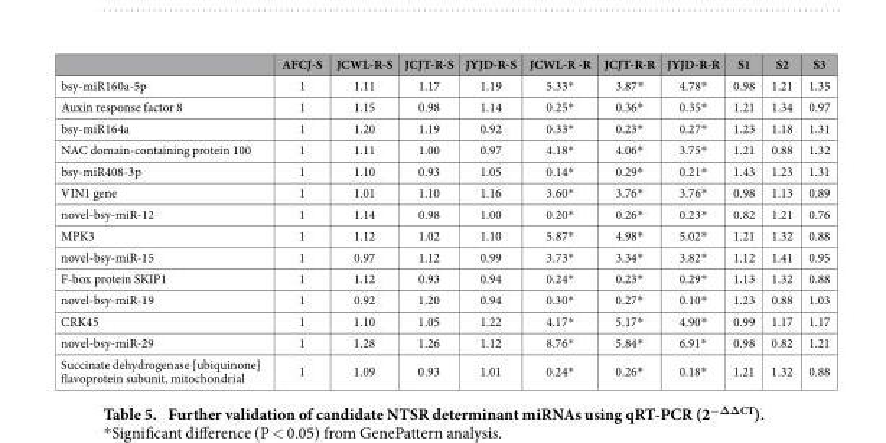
<table><thead><tr><td></td><td>AFCJ-S</td><td>JCWL-R-S</td><td>JCJT-R-S</td><td>JYJD-R-S</td><td>JCWL-R -R</td><td>JCJT-R-R</td><td>JYJD-R-R</td><td>S1</td><td>S2</td><td>S3</td></tr></thead><tbody><tr><td>bsy-miR160a-5p</td><td>1</td><td>1.11</td><td>1.17</td><td>1.19</td><td>5.33*</td><td>3.87*</td><td>4.78*</td><td>0.98</td><td>1.21</td><td>1.35</td></tr><tr><td>Auxin response factor 8</td><td>1</td><td>1.15</td><td>0.98</td><td>1.14</td><td>0.25*</td><td>0.36*</td><td>0.35*</td><td>1.21</td><td>1.34</td><td>0.97</td></tr><tr><td>bsy-miR164a</td><td>1</td><td>1.20</td><td>1.19</td><td>0.92</td><td>0.33*</td><td>0.23*</td><td>0.27*</td><td>1.23</td><td>1.18</td><td>1.31</td></tr><tr><td>NAC domain-containing protein 100</td><td>1</td><td>1.11</td><td>1.00</td><td>0.97</td><td>4.18*</td><td>4.06*</td><td>3.75*</td><td>1.21</td><td>0.88</td><td>1.32</td></tr><tr><td>bsy-miR408-3p</td><td>1</td><td>1.10</td><td>0.93</td><td>1.05</td><td>0.14*</td><td>0.29*</td><td>0.21*</td><td>1.43</td><td>1.23</td><td>1.31</td></tr><tr><td>VIN1 gene</td><td>1</td><td>1.01</td><td>1.10</td><td>1.16</td><td>3.60*</td><td>3.76*</td><td>3.76*</td><td>0.98</td><td>1.13</td><td>0.89</td></tr><tr><td>novel-bsy-miR-12</td><td>1</td><td>1.14</td><td>0.98</td><td>1.00</td><td>0.20*</td><td>0.26*</td><td>0.23*</td><td>0.82</td><td>1.21</td><td>0.76</td></tr><tr><td>MPK3</td><td>1</td><td>1.12</td><td>1.02</td><td>1.10</td><td>5.87*</td><td>4.98*</td><td>5.02*</td><td>1.21</td><td>1.32</td><td>0.88</td></tr><tr><td>novel-bsy-miR-15</td><td>1</td><td>0.97</td><td>1.12</td><td>0.99</td><td>3.73*</td><td>3.34*</td><td>3.82*</td><td>1.12</td><td>1.41</td><td>0.95</td></tr><tr><td>F-box protein SKIP1</td><td>1</td><td>1.12</td><td>0.93</td><td>0.94</td><td>0.24*</td><td>0.23*</td><td>0.29*</td><td>1.13</td><td>1.32</td><td>0.88</td></tr><tr><td>novel-bsy-miR-19</td><td>1</td><td>0.92</td><td>1.20</td><td>0.94</td><td>0.30*</td><td>0.27*</td><td>0.10*</td><td>1.23</td><td>0.88</td><td>1.03</td></tr><tr><td>CRK45</td><td>1</td><td>1.10</td><td>1.05</td><td>1.22</td><td>4.17*</td><td>5.17*</td><td>4.90*</td><td>0.99</td><td>1.17</td><td>1.17</td></tr><tr><td>novel-bsy-miR-29</td><td>1</td><td>1.28</td><td>1.26</td><td>1.12</td><td>8.76*</td><td>5.84*</td><td>6.91*</td><td>0.98</td><td>0.82</td><td>1.21</td></tr><tr><td>Succinate dehydrogenase [ubiquinone] flavoprotein subunit, mitochondrial</td><td>1</td><td>1.09</td><td>0.93</td><td>1.01</td><td>0.24*</td><td>0.26*</td><td>0.18*</td><td>1.21</td><td>1.32</td><td>0.88</td></tr></tbody></table>